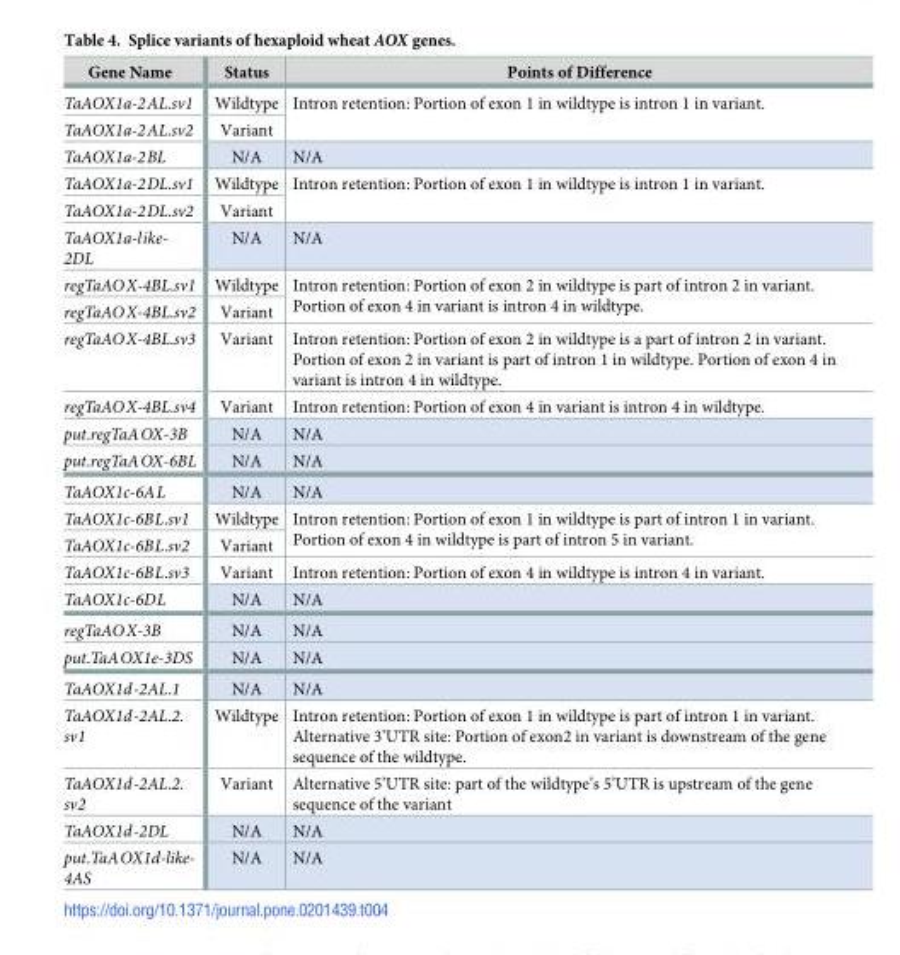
<table><thead><tr><td>Gene Name</td><td>Status</td><td>Points of Difference</td></tr></thead><tbody><tr><td>TaAOX1a-2AL.sv1</td><td>Wildtype</td><td rowspan="2">Intron retention: Portion of exon 1 in wildtype is intron 1 in variant.</td></tr><tr><td>TaAOX1a-2AL.sv2</td><td>Variant</td></tr><tr><td>TaAOX1a-2BL</td><td>N/A</td><td>N/A</td></tr><tr><td>TaAOX1a-2DL.sv1</td><td>Wildtype</td><td rowspan="2">Intron retention: Portion of exon 1 in wildtype is intron 1 in variant.</td></tr><tr><td>TaAOX1a-2DL.sv2</td><td>Variant</td></tr><tr><td>TaAOX1a-like- 2DL</td><td>N/A</td><td>N/A</td></tr><tr><td>regTaAOX-4BL.sv1</td><td>Wildtype</td><td rowspan="2">Intron retention: Portion of exon 2 in wildtype is part of intron 2 in variant. Portion of exon 4 in variant is intron 4 in wildtype.</td></tr><tr><td>regTaAOX-4BL.sv2</td><td>Variant</td></tr><tr><td>regTaAOX-4BL.sv3</td><td>Variant</td><td>Intron retention: Portion of exon 2 in wildtype is a part of intron 2 in variant. Portion of exon 2 in variant is part of intron 1 in wildtype. Portion of exon 4 in variant is intron 4 in wildtype.</td></tr><tr><td>regTaAOX-4BL.sv4</td><td>Variant</td><td>Intron retention: Portion of exon 4 in variant is intron 4 in wildtype.</td></tr><tr><td>put.regTaAOX-3B</td><td>N/A</td><td>N/A</td></tr><tr><td>put.regTaAOX-6BL</td><td>N/A</td><td>N/A</td></tr><tr><td>TaAOX1c-6AL</td><td>N/A</td><td>N/A</td></tr><tr><td>TaAOX1c-6BL.sv1</td><td>Wildtype</td><td rowspan="2">Intron retention: Portion of exon 1 in wildtype is part of intron 1 in variant. Portion of exon 4 in wildtype is part of intron 5 in variant.</td></tr><tr><td>TaAOX1c-6BL.sv2</td><td>Variant</td></tr><tr><td>TaAOX1c-6BL.sv3</td><td>Variant</td><td>Intron retention: Portion of exon 4 in wildtype is intron 4 in variant.</td></tr><tr><td>TaAOX1c-6DL</td><td>N/A</td><td>N/A</td></tr><tr><td>regTaAOX-3B</td><td>N/A</td><td>N/A</td></tr><tr><td>put.TaAOX1e-3DS</td><td>N/A</td><td>N/A</td></tr><tr><td>TaAOX1d-2AL.1</td><td>N/A</td><td>N/A</td></tr><tr><td>TaAOX1d-2AL.2. sv1</td><td>Wildtype</td><td>Intron retention: Portion of exon 1 in wildtype is part of intron 1 in variant. Alternative 3’UTR site: Portion of exon2 in variant is downstream of the gene sequence of the wildtype.</td></tr><tr><td>TaAOX1d-2AL.2. sv2</td><td>Variant</td><td>Alternative 5’UTR site: part of the wildtype’s 5’UTR is upstream of the gene sequence of the variant</td></tr><tr><td>TaAOX1d-2DL</td><td>N/A</td><td>N/A</td></tr><tr><td>put.TaAOX1d-like- 4AS</td><td>N/A</td><td>N/A</td></tr></tbody></table>